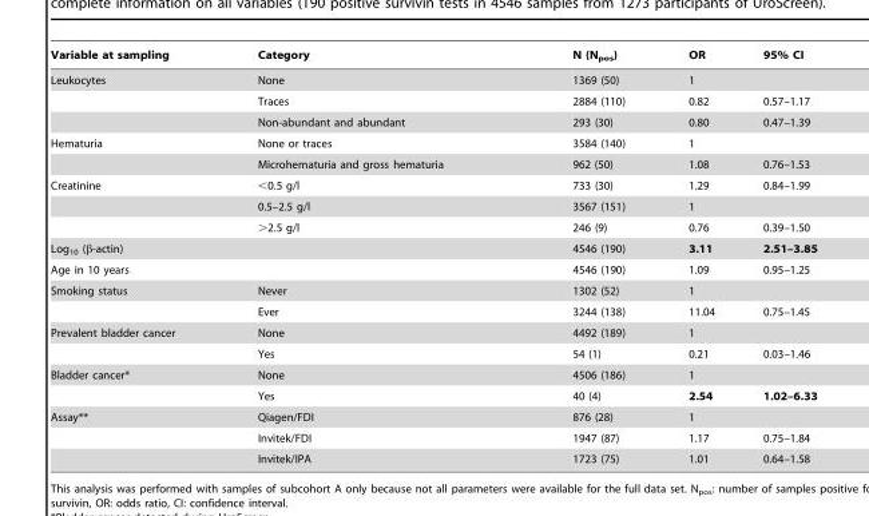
<table><thead><tr><td>Variable at sampling</td><td>Category</td><td>N (N<sub>pos</sub>)</td><td>OR</td><td>95% CI</td></tr></thead><tbody><tr><td rowspan="3">Leukocytes</td><td>None</td><td>1369 (50)</td><td>1</td><td></td></tr><tr><td>Traces</td><td>2884 (110)</td><td>0.82</td><td>0.57–1.17</td></tr><tr><td>Non-abundant and abundant</td><td>293 (30)</td><td>0.80</td><td>0.47–1.39</td></tr><tr><td rowspan="2">Hematuria</td><td>None or traces</td><td>3584 (140)</td><td>1</td><td></td></tr><tr><td>Microhematuria and gross hematuria</td><td>962 (50)</td><td>1.08</td><td>0.76–1.53</td></tr><tr><td rowspan="3">Creatinine</td><td>&lt;0.5 g/l</td><td>733 (30)</td><td>1.29</td><td>0.84–1.99</td></tr><tr><td>0.5–2.5 g/l</td><td>3567 (151)</td><td>1</td><td></td></tr><tr><td>&gt;2.5 g/l</td><td>246 (9)</td><td>0.76</td><td>0.39–1.50</td></tr><tr><td>Log<sub>10</sub> (β-actin)</td><td></td><td>4546 (190)</td><td>3.11</td><td>2.51–3.85</td></tr><tr><td>Age in 10 years</td><td></td><td>4546 (190)</td><td>1.09</td><td>0.95–1.25</td></tr><tr><td rowspan="2">Smoking status</td><td>Never</td><td>1302 (52)</td><td>1</td><td></td></tr><tr><td>Ever</td><td>3244 (138)</td><td>11.04</td><td>0.75–1.45</td></tr><tr><td rowspan="2">Prevalent bladder cancer</td><td>None</td><td>4492 (189)</td><td>1</td><td></td></tr><tr><td>Yes</td><td>54 (1)</td><td>0.21</td><td>0.03–1.46</td></tr><tr><td rowspan="2">Bladder cancer*</td><td>None</td><td>4506 (186)</td><td>1</td><td></td></tr><tr><td>Yes</td><td>40 (4)</td><td>2.54</td><td>1.02–6.33</td></tr><tr><td rowspan="3">Assay**</td><td>Qiagen/FDI</td><td>876 (28)</td><td>1</td><td></td></tr><tr><td>Invitek/FDI</td><td>1947 (87)</td><td>1.17</td><td>0.75–1.84</td></tr><tr><td>Invitek/IPA</td><td>1723 (75)</td><td>1.01</td><td>0.64–1.58</td></tr></tbody></table>